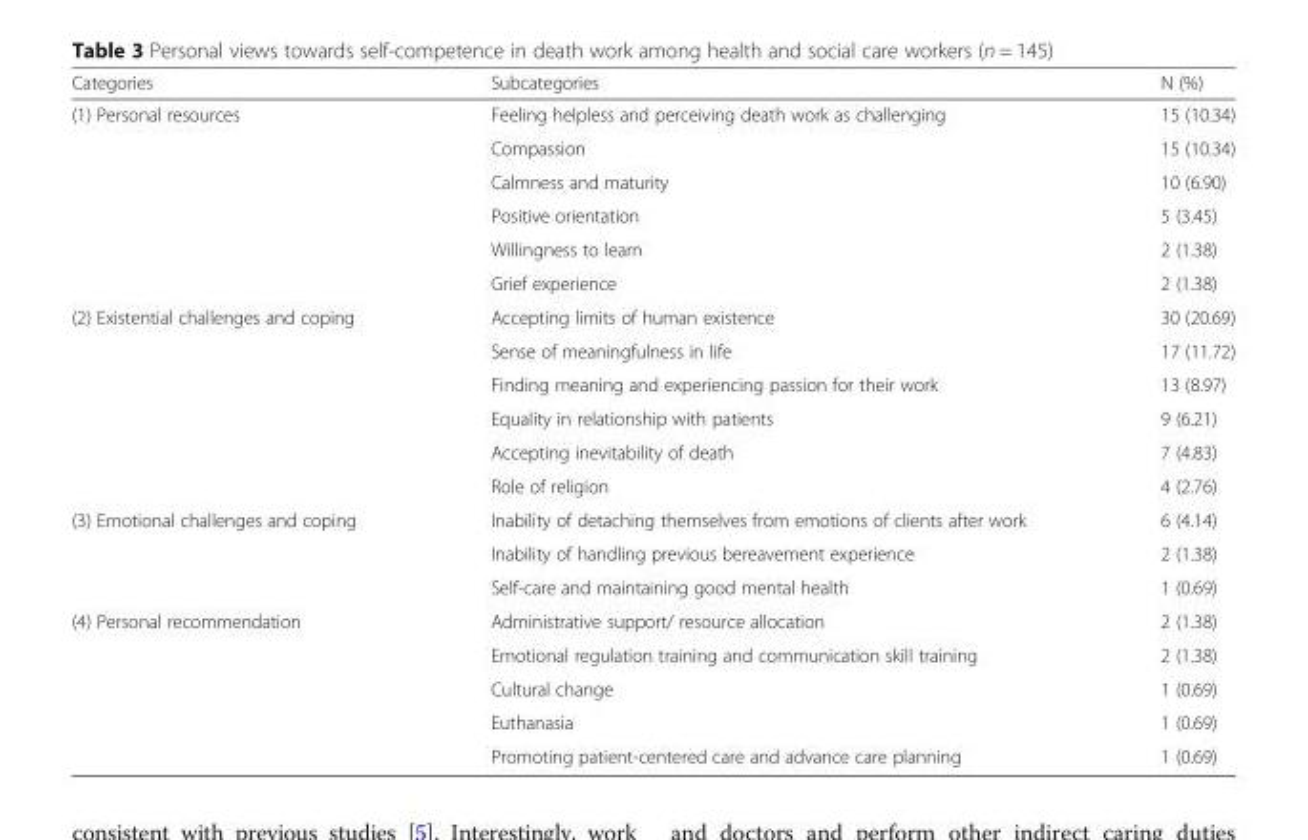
<table><thead><tr><td>Categories</td><td>Subcategories</td><td>N (%)</td></tr></thead><tbody><tr><td rowspan="6">(1) Personal resources</td><td>Feeling helpless and perceiving death work as challenging</td><td>15 (10.34)</td></tr><tr><td>Compassion</td><td>15 (10.34)</td></tr><tr><td>Calmness and maturity</td><td>10 (6.90)</td></tr><tr><td>Positive orientation</td><td>5 (3.45)</td></tr><tr><td>Willingness to learn</td><td>2 (1.38)</td></tr><tr><td>Grief experience</td><td>2 (1.38)</td></tr><tr><td rowspan="6">(2) Existential challenges and coping</td><td>Accepting limits of human existence</td><td>30 (20.69)</td></tr><tr><td>Sense of meaningfulness in life</td><td>17 (11.72)</td></tr><tr><td>Finding meaning and experiencing passion for their work</td><td>13 (8.97)</td></tr><tr><td>Equality in relationship with patients</td><td>9 (6.21)</td></tr><tr><td>Accepting inevitability of death</td><td>7 (4.83)</td></tr><tr><td>Role of religion</td><td>4 (2.76)</td></tr><tr><td rowspan="3">(3) Emotional challenges and coping</td><td>Inability of detaching themselves from emotions of clients after work</td><td>6 (4.14)</td></tr><tr><td>Inability of handling previous bereavement experience</td><td>2 (1.38)</td></tr><tr><td>Self-care and maintaining good mental health</td><td>1 (0.69)</td></tr><tr><td rowspan="5">(4) Personal recommendation</td><td>Administrative support/ resource allocation</td><td>2 (1.38)</td></tr><tr><td>Emotional regulation training and communication skill training</td><td>2 (1.38)</td></tr><tr><td>Cultural change</td><td>1 (0.69)</td></tr><tr><td>Euthanasia</td><td>1 (0.69)</td></tr><tr><td>Promoting patient-centered care and advance care planning</td><td>1 (0.69)</td></tr></tbody></table>